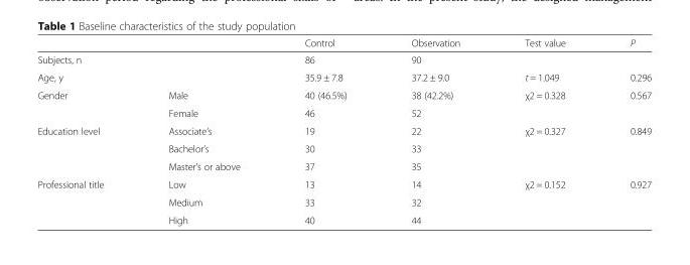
<table><thead><tr><td></td><td></td><td>Control</td><td>Observation</td><td>Test value</td><td>P</td></tr></thead><tbody><tr><td>Subjects, n</td><td></td><td>86</td><td>90</td><td></td><td></td></tr><tr><td>Age, y</td><td></td><td>35.9 ± 7.8</td><td>37.2 ± 9.0</td><td>t = 1.049</td><td>0.296</td></tr><tr><td rowspan="2">Gender</td><td>Male</td><td>40 (46.5%)</td><td>38 (42.2%)</td><td>χ2 = 0.328</td><td>0.567</td></tr><tr><td>Female</td><td>46</td><td>52</td><td></td><td></td></tr><tr><td rowspan="3">Education level</td><td>Associate’s</td><td>19</td><td>22</td><td>χ2 = 0.327</td><td>0.849</td></tr><tr><td>Bachelor’s</td><td>30</td><td>33</td><td></td><td></td></tr><tr><td>Master’s or above</td><td>37</td><td>35</td><td></td><td></td></tr><tr><td rowspan="3">Professional title</td><td>Low</td><td>13</td><td>14</td><td>χ2 = 0.152</td><td>0.927</td></tr><tr><td>Medium</td><td>33</td><td>32</td><td></td><td></td></tr><tr><td>High</td><td>40</td><td>44</td><td></td><td></td></tr></tbody></table>